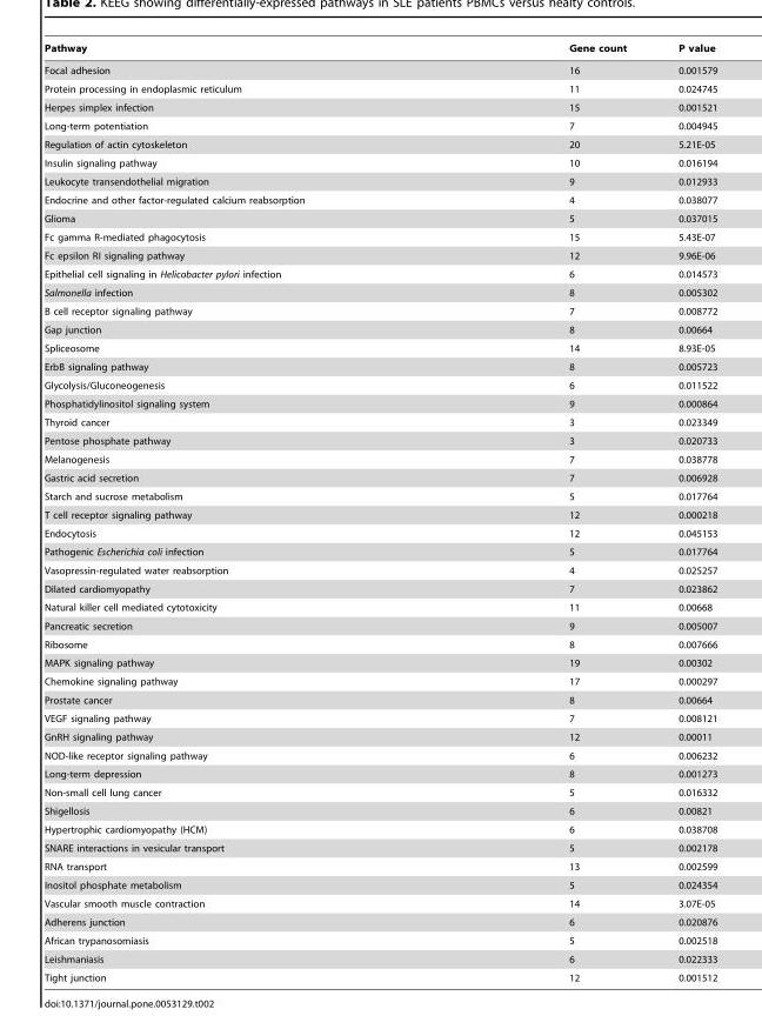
<table><thead><tr><td>Pathway</td><td>Gene count</td><td>P value</td></tr></thead><tbody><tr><td>Focal adhesion</td><td>16</td><td>0.001579</td></tr><tr><td>Protein processing in endoplasmic reticulum</td><td>11</td><td>0.024745</td></tr><tr><td>Herpes simplex infection</td><td>15</td><td>0.001521</td></tr><tr><td>Long-term potentiation</td><td>7</td><td>0.004945</td></tr><tr><td>Regulation of actin cytoskeleton</td><td>20</td><td>5.21E-05</td></tr><tr><td>Insulin signaling pathway</td><td>10</td><td>0.016194</td></tr><tr><td>Leukocyte transendothelial migration</td><td>9</td><td>0.012933</td></tr><tr><td>Endocrine and other factor-regulated calcium reabsorption</td><td>4</td><td>0.038077</td></tr><tr><td>Glioma</td><td>5</td><td>0.037015</td></tr><tr><td>Fc gamma R-mediated phagocytosis</td><td>15</td><td>5.43E-07</td></tr><tr><td>Fc epsilon RI signaling pathway</td><td>12</td><td>9.96E-06</td></tr><tr><td>Epithelial cell signaling in Helicobacter pylori infection</td><td>6</td><td>0.014573</td></tr><tr><td>Salmonella infection</td><td>8</td><td>0.005302</td></tr><tr><td>B cell receptor signaling pathway</td><td>7</td><td>0.008772</td></tr><tr><td>Gap junction</td><td>8</td><td>0.00664</td></tr><tr><td>Spliceosome</td><td>14</td><td>8.93E-05</td></tr><tr><td>ErbB signaling pathway</td><td>8</td><td>0.005723</td></tr><tr><td>Glycolysis/Gluconeogenesis</td><td>6</td><td>0.011522</td></tr><tr><td>Phosphatidylinositol signaling system</td><td>9</td><td>0.000864</td></tr><tr><td>Thyroid cancer</td><td>3</td><td>0.023349</td></tr><tr><td>Pentose phosphate pathway</td><td>3</td><td>0.020733</td></tr><tr><td>Melanogenesis</td><td>7</td><td>0.038778</td></tr><tr><td>Gastric acid secretion</td><td>7</td><td>0.006928</td></tr><tr><td>Starch and sucrose metabolism</td><td>5</td><td>0.017764</td></tr><tr><td>T cell receptor signaling pathway</td><td>12</td><td>0.000218</td></tr><tr><td>Endocytosis</td><td>12</td><td>0.045153</td></tr><tr><td>Pathogenic Escherichia coli infection</td><td>5</td><td>0.017764</td></tr><tr><td>Vasopressin-regulated water reabsorption</td><td>4</td><td>0.025257</td></tr><tr><td>Dilated cardiomyopathy</td><td>7</td><td>0.023862</td></tr><tr><td>Natural killer cell mediated cytotoxicity</td><td>11</td><td>0.00668</td></tr><tr><td>Pancreatic secretion</td><td>9</td><td>0.005007</td></tr><tr><td>Ribosome</td><td>8</td><td>0.007666</td></tr><tr><td>MAPK signaling pathway</td><td>19</td><td>0.00302</td></tr><tr><td>Chemokine signaling pathway</td><td>17</td><td>0.000297</td></tr><tr><td>Prostate cancer</td><td>8</td><td>0.00664</td></tr><tr><td>VEGF signaling pathway</td><td>7</td><td>0.008121</td></tr><tr><td>GnRH signaling pathway</td><td>12</td><td>0.00011</td></tr><tr><td>NOD-like receptor signaling pathway</td><td>6</td><td>0.006232</td></tr><tr><td>Long-term depression</td><td>8</td><td>0.001273</td></tr><tr><td>Non-small cell lung cancer</td><td>5</td><td>0.016332</td></tr><tr><td>Shigellosis</td><td>6</td><td>0.00821</td></tr><tr><td>Hypertrophic cardiomyopathy (HCM)</td><td>6</td><td>0.038708</td></tr><tr><td>SNARE interactions in vesicular transport</td><td>5</td><td>0.002178</td></tr><tr><td>RNA transport</td><td>13</td><td>0.002599</td></tr><tr><td>Inositol phosphate metabolism</td><td>5</td><td>0.024354</td></tr><tr><td>Vascular smooth muscle contraction</td><td>14</td><td>3.07E-05</td></tr><tr><td>Adherens junction</td><td>6</td><td>0.020876</td></tr><tr><td>African trypanosomiasis</td><td>5</td><td>0.002518</td></tr><tr><td>Leishmaniasis</td><td>6</td><td>0.022333</td></tr><tr><td>Tight junction</td><td>12</td><td>0.001512</td></tr></tbody></table>